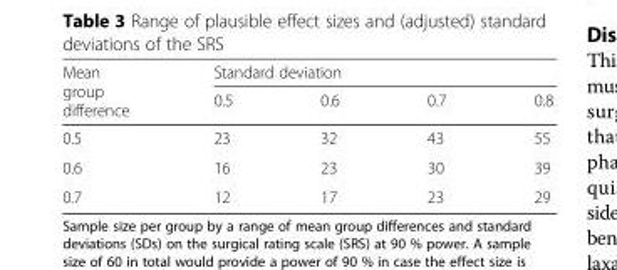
<table><thead><tr><td rowspan="2">Mean group difference</td><td colspan="4">Standard deviation</td></tr><tr><td>0.5</td><td>0.6</td><td>0.7</td><td>0.8</td></tr></thead><tbody><tr><td>0.5</td><td>23</td><td>32</td><td>43</td><td>55</td></tr><tr><td>0.6</td><td>16</td><td>23</td><td>30</td><td>39</td></tr><tr><td>0.7</td><td>12</td><td>17</td><td>23</td><td>29</td></tr></tbody></table>